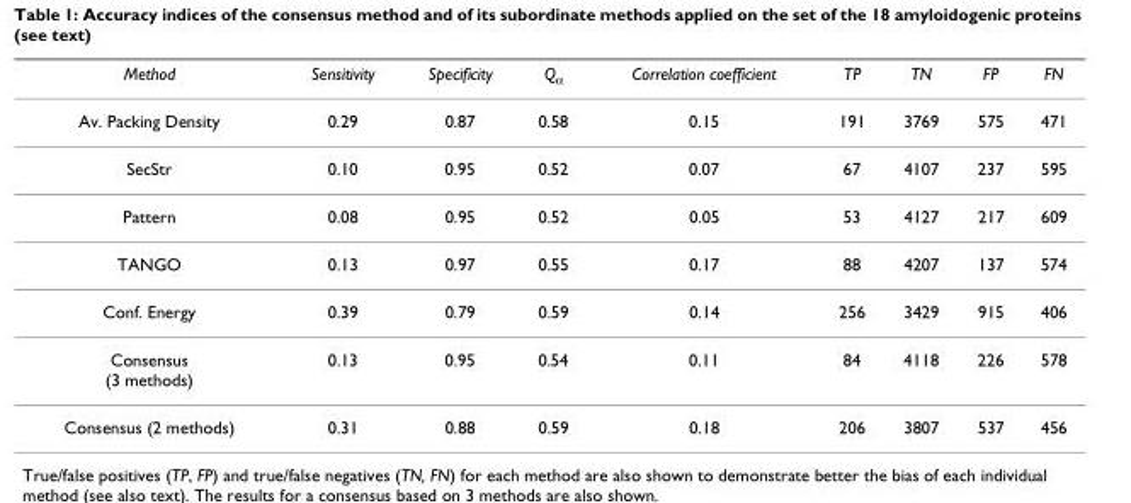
<table><thead><tr><td>Method</td><td>Sensitivity</td><td>Specificity</td><td>Q<sub>α</sub></td><td>Correlation coefficient</td><td>TP</td><td>TN</td><td>FP</td><td>FN</td></tr></thead><tbody><tr><td>Av. Packing Density</td><td>0.29</td><td>0.87</td><td>0.58</td><td>0.15</td><td>191</td><td>3769</td><td>575</td><td>471</td></tr><tr><td>SecStr</td><td>0.10</td><td>0.95</td><td>0.52</td><td>0.07</td><td>67</td><td>4107</td><td>237</td><td>595</td></tr><tr><td>Pattern</td><td>0.08</td><td>0.95</td><td>0.52</td><td>0.05</td><td>53</td><td>4127</td><td>217</td><td>609</td></tr><tr><td>TANGO</td><td>0.13</td><td>0.97</td><td>0.55</td><td>0.17</td><td>88</td><td>4207</td><td>137</td><td>574</td></tr><tr><td>Conf. Energy</td><td>0.39</td><td>0.79</td><td>0.59</td><td>0.14</td><td>256</td><td>3429</td><td>915</td><td>406</td></tr><tr><td>Consensus (3 methods)</td><td>0.13</td><td>0.95</td><td>0.54</td><td>0.11</td><td>84</td><td>4118</td><td>226</td><td>578</td></tr><tr><td>Consensus (2 methods)</td><td>0.31</td><td>0.88</td><td>0.59</td><td>0.18</td><td>206</td><td>3807</td><td>537</td><td>456</td></tr></tbody></table>